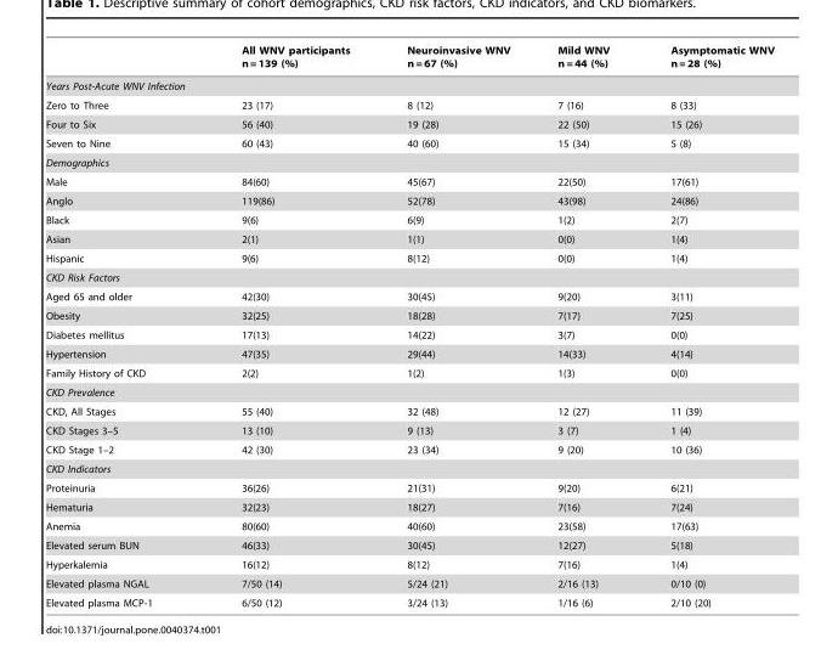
<table><thead><tr><td></td><td>All WNV participants n = 139 (%)</td><td>Neuroinvasive WNV n = 67 (%)</td><td>Mild WNV n = 44 (%)</td><td>Asymptomatic WNV n = 28 (%)</td></tr></thead><tbody><tr><td colspan="5">Years Post-Acute WNV Infection</td></tr><tr><td>Zero to Three</td><td>23 (17)</td><td>8 (12)</td><td>7 (16)</td><td>8 (33)</td></tr><tr><td>Four to Six</td><td>56 (40)</td><td>19 (28)</td><td>22 (50)</td><td>15 (26)</td></tr><tr><td>Seven to Nine</td><td>60 (43)</td><td>40 (60)</td><td>15 (34)</td><td>5 (8)</td></tr><tr><td colspan="5">Demographics</td></tr><tr><td>Male</td><td>84(60)</td><td>45(67)</td><td>22(50)</td><td>17(61)</td></tr><tr><td>Anglo</td><td>119(86)</td><td>52(78)</td><td>43(98)</td><td>24(86)</td></tr><tr><td>Black</td><td>9(6)</td><td>6(9)</td><td>1(2)</td><td>2(7)</td></tr><tr><td>Asian</td><td>2(1)</td><td>1(1)</td><td>0(0)</td><td>1(4)</td></tr><tr><td>Hispanic</td><td>9(6)</td><td>8(12)</td><td>0(0)</td><td>1(4)</td></tr><tr><td colspan="5">CKD Risk Factors</td></tr><tr><td>Aged 65 and older</td><td>42(30)</td><td>30(45)</td><td>9(20)</td><td>3(11)</td></tr><tr><td>Obesity</td><td>32(25)</td><td>18(28)</td><td>7(17)</td><td>7(25)</td></tr><tr><td>Diabetes mellitus</td><td>17(13)</td><td>14(22)</td><td>3(7)</td><td>0(0)</td></tr><tr><td>Hypertension</td><td>47(35)</td><td>29(44)</td><td>14(33)</td><td>4(14)</td></tr><tr><td>Family History of CKD</td><td>2(2)</td><td>1(2)</td><td>1(3)</td><td>0(0)</td></tr><tr><td colspan="5">CKD Prevalence</td></tr><tr><td>CKD, All Stages</td><td>55 (40)</td><td>32 (48)</td><td>12 (27)</td><td>11 (39)</td></tr><tr><td>CKD Stages 3–5</td><td>13 (10)</td><td>9 (13)</td><td>3 (7)</td><td>1 (4)</td></tr><tr><td>CKD Stage 1–2</td><td>42 (30)</td><td>23 (34)</td><td>9 (20)</td><td>10 (36)</td></tr><tr><td colspan="5">CKD Indicators</td></tr><tr><td>Proteinuria</td><td>36(26)</td><td>21(31)</td><td>9(20)</td><td>6(21)</td></tr><tr><td>Hematuria</td><td>32(23)</td><td>18(27)</td><td>7(16)</td><td>7(24)</td></tr><tr><td>Anemia</td><td>80(60)</td><td>40(60)</td><td>23(58)</td><td>17(63)</td></tr><tr><td>Elevated serum BUN</td><td>46(33)</td><td>30(45)</td><td>12(27)</td><td>5(18)</td></tr><tr><td>Hyperkalemia</td><td>16(12)</td><td>8(12)</td><td>7(16)</td><td>1(4)</td></tr><tr><td>Elevated plasma NGAL</td><td>7/50 (14)</td><td>5/24 (21)</td><td>2/16 (13)</td><td>0/10 (0)</td></tr><tr><td>Elevated plasma MCP-1</td><td>6/50 (12)</td><td>3/24 (13)</td><td>1/16 (6)</td><td>2/10 (20)</td></tr></tbody></table>